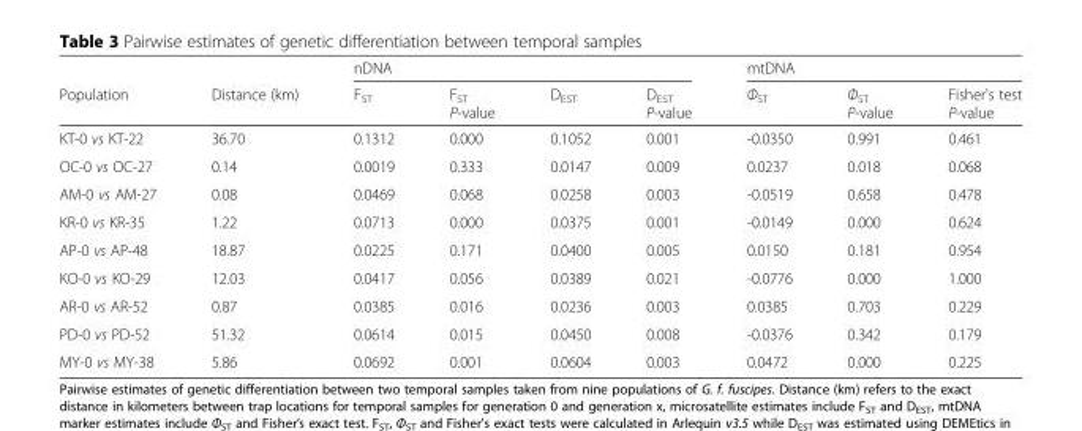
<table><thead><tr><td rowspan="2">Population</td><td rowspan="2">Distance (km)</td><td colspan="4">nDNA</td><td colspan="3">mtDNA</td></tr><tr><td>F<sub>ST</sub></td><td>F<sub>ST</sub> P-value</td><td>D<sub>EST</sub></td><td>D<sub>EST</sub> P-value</td><td>Φ<sub>ST</sub></td><td>Φ<sub>ST</sub> P-value</td><td>Fisher&#x27;s test P-value</td></tr></thead><tbody><tr><td>KT-0 vs KT-22</td><td>36.70</td><td>0.1312</td><td>0.000</td><td>0.1052</td><td>0.001</td><td>-0.0350</td><td>0.991</td><td>0.461</td></tr><tr><td>OC-0 vs OC-27</td><td>0.14</td><td>0.0019</td><td>0.333</td><td>0.0147</td><td>0.009</td><td>0.0237</td><td>0.018</td><td>0.068</td></tr><tr><td>AM-0 vs AM-27</td><td>0.08</td><td>0.0469</td><td>0.068</td><td>0.0258</td><td>0.003</td><td>-0.0519</td><td>0.658</td><td>0.478</td></tr><tr><td>KR-0 vs KR-35</td><td>1.22</td><td>0.0713</td><td>0.000</td><td>0.0375</td><td>0.001</td><td>-0.0149</td><td>0.000</td><td>0.624</td></tr><tr><td>AP-0 vs AP-48</td><td>18.87</td><td>0.0225</td><td>0.171</td><td>0.0400</td><td>0.005</td><td>0.0150</td><td>0.181</td><td>0.954</td></tr><tr><td>KO-0 vs KO-29</td><td>12.03</td><td>0.0417</td><td>0.056</td><td>0.0389</td><td>0.021</td><td>-0.0776</td><td>0.000</td><td>1.000</td></tr><tr><td>AR-0 vs AR-52</td><td>0.87</td><td>0.0385</td><td>0.016</td><td>0.0236</td><td>0.003</td><td>0.0385</td><td>0.703</td><td>0.229</td></tr><tr><td>PD-0 vs PD-52</td><td>51.32</td><td>0.0614</td><td>0.015</td><td>0.0450</td><td>0.008</td><td>-0.0376</td><td>0.342</td><td>0.179</td></tr><tr><td>MY-0 vs MY-38</td><td>5.86</td><td>0.0692</td><td>0.001</td><td>0.0604</td><td>0.003</td><td>0.0472</td><td>0.000</td><td>0.225</td></tr></tbody></table>